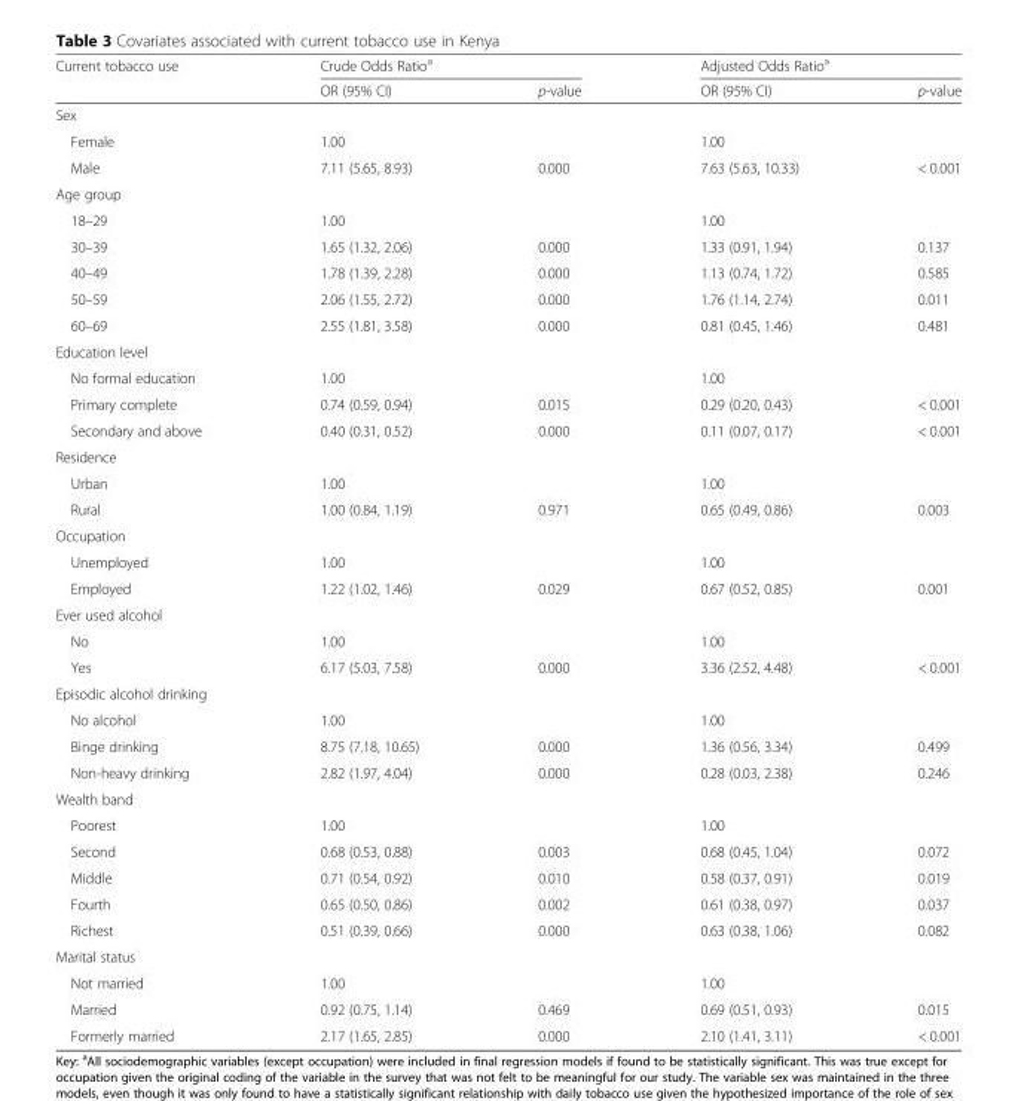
<table><thead><tr><td rowspan="2">Current tobacco use</td><td colspan="2">Crude Odds Ratio<sup>a</sup></td><td colspan="2">Adjusted Odds Ratio<sup>a</sup></td></tr><tr><td>OR (95% CI)</td><td>p-value</td><td>OR (95% CI)</td><td>p-value</td></tr></thead><tbody><tr><td colspan="5">Sex</td></tr><tr><td>Female</td><td>1.00</td><td></td><td>1.00</td><td></td></tr><tr><td>Male</td><td>7.11 (5.65, 8.93)</td><td>0.000</td><td>7.63 (5.63, 10.33)</td><td>&lt; 0.001</td></tr><tr><td colspan="5">Age group</td></tr><tr><td>18–29</td><td>1.00</td><td></td><td>1.00</td><td></td></tr><tr><td>30–39</td><td>1.65 (1.32, 2.06)</td><td>0.000</td><td>1.33 (0.91, 1.94)</td><td>0.137</td></tr><tr><td>40–49</td><td>1.78 (1.39, 2.28)</td><td>0.000</td><td>1.13 (0.74, 1.72)</td><td>0.585</td></tr><tr><td>50–59</td><td>2.06 (1.55, 2.72)</td><td>0.000</td><td>1.76 (1.14, 2.74)</td><td>0.011</td></tr><tr><td>60–69</td><td>2.55 (1.81, 3.58)</td><td>0.000</td><td>0.81 (0.45, 1.46)</td><td>0.481</td></tr><tr><td colspan="5">Education level</td></tr><tr><td>No formal education</td><td>1.00</td><td></td><td>1.00</td><td></td></tr><tr><td>Primary complete</td><td>0.74 (0.59, 0.94)</td><td>0.015</td><td>0.29 (0.20, 0.43)</td><td>&lt; 0.001</td></tr><tr><td>Secondary and above</td><td>0.40 (0.31, 0.52)</td><td>0.000</td><td>0.11 (0.07, 0.17)</td><td>&lt; 0.001</td></tr><tr><td colspan="5">Residence</td></tr><tr><td>Urban</td><td>1.00</td><td></td><td>1.00</td><td></td></tr><tr><td>Rural</td><td>1.00 (0.84, 1.19)</td><td>0.971</td><td>0.65 (0.49, 0.86)</td><td>0.003</td></tr><tr><td colspan="5">Occupation</td></tr><tr><td>Unemployed</td><td>1.00</td><td></td><td>1.00</td><td></td></tr><tr><td>Employed</td><td>1.22 (1.02, 1.46)</td><td>0.029</td><td>0.67 (0.52, 0.85)</td><td>0.001</td></tr><tr><td colspan="5">Ever used alcohol</td></tr><tr><td>No</td><td>1.00</td><td></td><td>1.00</td><td></td></tr><tr><td>Yes</td><td>6.17 (5.03, 7.58)</td><td>0.000</td><td>3.36 (2.52, 4.48)</td><td>&lt; 0.001</td></tr><tr><td colspan="5">Episodic alcohol drinking</td></tr><tr><td>No alcohol</td><td>1.00</td><td></td><td>1.00</td><td></td></tr><tr><td>Binge drinking</td><td>8.75 (7.18, 10.65)</td><td>0.000</td><td>1.36 (0.56, 3.34)</td><td>0.499</td></tr><tr><td>Non-heavy drinking</td><td>2.82 (1.97, 4.04)</td><td>0.000</td><td>0.28 (0.03, 2.38)</td><td>0.246</td></tr><tr><td colspan="5">Wealth band</td></tr><tr><td>Poorest</td><td>1.00</td><td></td><td>1.00</td><td></td></tr><tr><td>Second</td><td>0.68 (0.53, 0.88)</td><td>0.003</td><td>0.68 (0.45, 1.04)</td><td>0.072</td></tr><tr><td>Middle</td><td>0.71 (0.54, 0.92)</td><td>0.010</td><td>0.58 (0.37, 0.91)</td><td>0.019</td></tr><tr><td>Fourth</td><td>0.65 (0.50, 0.86)</td><td>0.002</td><td>0.61 (0.38, 0.97)</td><td>0.037</td></tr><tr><td>Richest</td><td>0.51 (0.39, 0.66)</td><td>0.000</td><td>0.63 (0.38, 1.06)</td><td>0.082</td></tr><tr><td colspan="5">Marital status</td></tr><tr><td>Not married</td><td>1.00</td><td></td><td>1.00</td><td></td></tr><tr><td>Married</td><td>0.92 (0.75, 1.14)</td><td>0.469</td><td>0.69 (0.51, 0.93)</td><td>0.015</td></tr><tr><td>Formerly married</td><td>2.17 (1.65, 2.85)</td><td>0.000</td><td>2.10 (1.41, 3.11)</td><td>&lt; 0.001</td></tr></tbody></table>